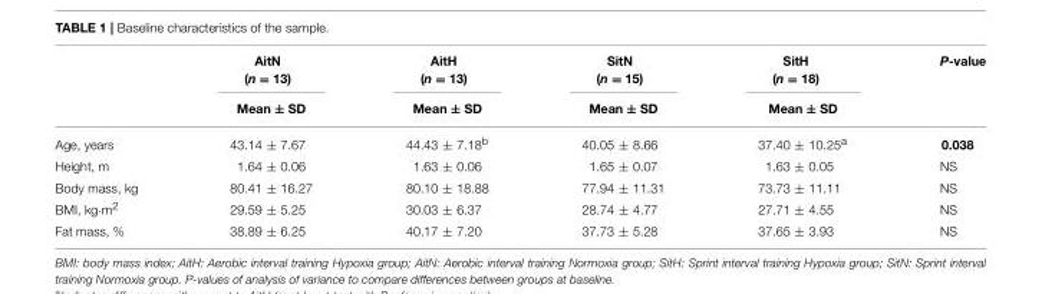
<table><thead><tr><td rowspan="2"></td><td rowspan="2">AitN (n = 13) Mean ± SD</td><td rowspan="2">AitH (n = 13) Mean ± SD</td><td rowspan="2">SitN (n = 15) Mean ± SD</td><td rowspan="2">SitH (n = 18) Mean ± SD</td><td rowspan="2">P-value</td></tr><tr></tr></thead><tbody><tr><td>Age, years</td><td>43.14 ± 7.67</td><td>44.43 ± 7.18<sup>b</sup></td><td>40.05 ± 8.66</td><td>37.40 ± 10.25<sup>a</sup></td><td>0.038</td></tr><tr><td>Height, m</td><td>1.64 ± 0.06</td><td>1.63 ± 0.06</td><td>1.65 ± 0.07</td><td>1.63 ± 0.05</td><td>NS</td></tr><tr><td>Body mass, kg</td><td>80.41 ± 16.27</td><td>80.10 ± 18.88</td><td>77.94 ± 11.31</td><td>73.73 ± 11.11</td><td>NS</td></tr><tr><td>BMI, kg·m<sup>2</sup></td><td>29.59 ± 5.25</td><td>30.03 ± 6.37</td><td>28.74 ± 4.77</td><td>27.71 ± 4.55</td><td>NS</td></tr><tr><td>Fat mass, %</td><td>38.89 ± 6.25</td><td>40.17 ± 7.20</td><td>37.73 ± 5.28</td><td>37.65 ± 3.93</td><td>NS</td></tr></tbody></table>